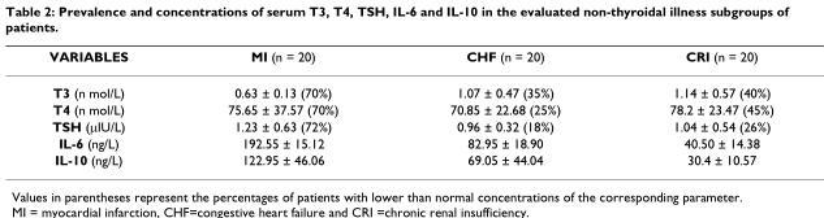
<table><thead><tr><td>VARIABLES</td><td>MI (n = 20)</td><td>CHF (n = 20)</td><td>CRI (n = 20)</td></tr></thead><tbody><tr><td>T3 (n mol/L)</td><td>0.63 ± 0.13 (70%)</td><td>1.07 ± 0.47 (35%)</td><td>1.14 ± 0.57 (40%)</td></tr><tr><td>T4 (n mol/L)</td><td>75.65 ± 37.57 (70%)</td><td>70.85 ± 22.68 (25%)</td><td>78.2 ± 23.47 (45%)</td></tr><tr><td>TSH (μIU/L)</td><td>1.23 ± 0.63 (72%)</td><td>0.96 ± 0.32 (18%)</td><td>1.04 ± 0.54 (26%)</td></tr><tr><td>IL-6 (ng/L)</td><td>192.55 ± 15.12</td><td>82.95 ± 18.90</td><td>40.50 ± 14.38</td></tr><tr><td>IL-10 (ng/L)</td><td>122.95 ± 46.06</td><td>69.05 ± 44.04</td><td>30.4 ± 10.57</td></tr></tbody></table>